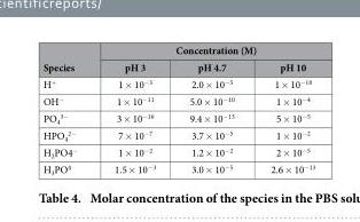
<table><thead><tr><td rowspan="2">Species</td><td colspan="3">Concentration (M)</td></tr><tr><td>pH 3</td><td>pH 4.7</td><td>pH 10</td></tr></thead><tbody><tr><td>H<sup>+</sup></td><td>1 × 10<sup>−3</sup></td><td>2.0 × 10<sup>−5</sup></td><td>1 × 10<sup>−10</sup></td></tr><tr><td>OH<sup>−</sup></td><td>1 × 10<sup>−11</sup></td><td>5.0 × 10<sup>−10</sup></td><td>1 × 10<sup>−4</sup></td></tr><tr><td>PO<sub>4</sub> <sup>3−</sup></td><td>3 × 10<sup>−16</sup></td><td>9.4 × 10<sup>−13</sup></td><td>5 × 10<sup>−5</sup></td></tr><tr><td>HPO<sub>4</sub> <sup>2−</sup></td><td>7 × 10<sup>−7</sup></td><td>3.7 × 10<sup>−5</sup></td><td>1 × 10<sup>−2</sup></td></tr><tr><td>H<sub>2</sub>PO4<sup>−</sup></td><td>1 × 10<sup>−2</sup></td><td>1.2 × 10<sup>−2</sup></td><td>2 × 10<sup>−5</sup></td></tr><tr><td>H<sub>3</sub>PO<sup>4</sup></td><td>1.5 × 10<sup>−3</sup></td><td>3.0 × 10<sup>−5</sup></td><td>2.6 × 10<sup>−13</sup></td></tr></tbody></table>